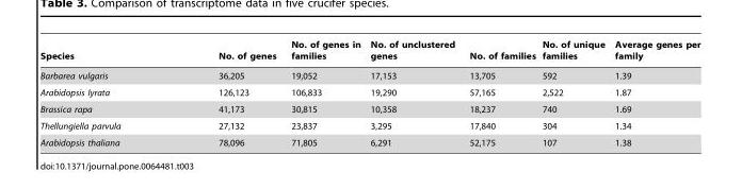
<table><thead><tr><td>Species</td><td>No. of genes</td><td>No. of genes in families</td><td>No. of unclustered genes</td><td>No. of families</td><td>No. of unique families</td><td>Average genes per family</td></tr></thead><tbody><tr><td>Barbarea vulgaris</td><td>36,205</td><td>19,052</td><td>17,153</td><td>13,705</td><td>592</td><td>1.39</td></tr><tr><td>Arabidopsis lyrata</td><td>126,123</td><td>106,833</td><td>19,290</td><td>57,165</td><td>2,522</td><td>1.87</td></tr><tr><td>Brassica rapa</td><td>41,173</td><td>30,815</td><td>10,358</td><td>18,237</td><td>740</td><td>1.69</td></tr><tr><td>Thellungiella parvula</td><td>27,132</td><td>23,837</td><td>3,295</td><td>17,840</td><td>304</td><td>1.34</td></tr><tr><td>Arabidopsis thaliana</td><td>78,096</td><td>71,805</td><td>6,291</td><td>52,175</td><td>107</td><td>1.38</td></tr></tbody></table>